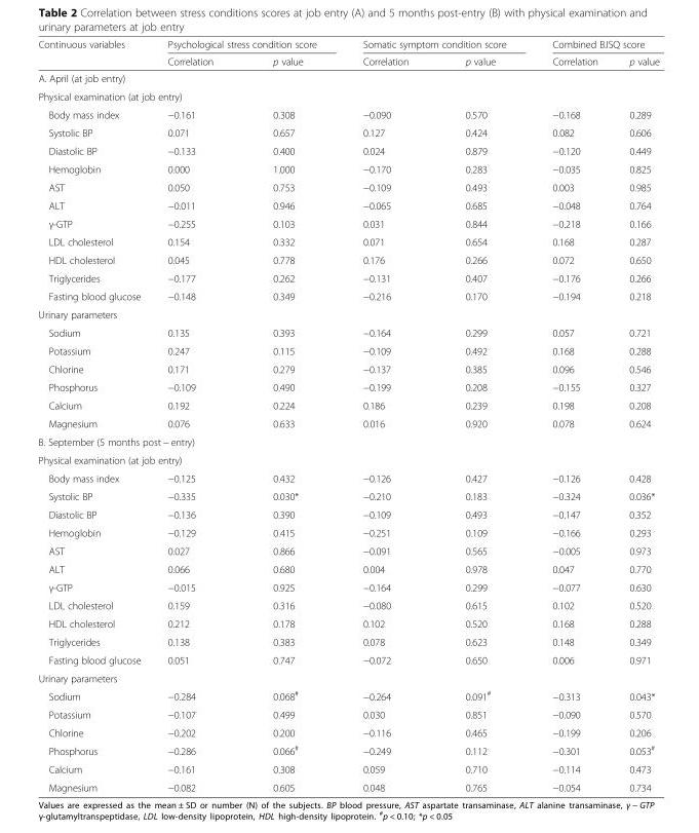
<table><thead><tr><td rowspan="2">Continuous variables</td><td colspan="2">Psychological stress condition score</td><td colspan="2">Somatic symptom condition score</td><td colspan="2">Combined BJSQ score</td></tr><tr><td>Correlation</td><td>p value</td><td>Correlation</td><td>p value</td><td>Correlation</td><td>p value</td></tr></thead><tbody><tr><td colspan="7">A. April (at job entry)</td></tr><tr><td colspan="7">Physical examination (at job entry)</td></tr><tr><td>Body mass index</td><td>−0.161</td><td>0.308</td><td>−0.090</td><td>0.570</td><td>−0.168</td><td>0.289</td></tr><tr><td>Systolic BP</td><td>0.071</td><td>0.657</td><td>0.127</td><td>0.424</td><td>0.082</td><td>0.606</td></tr><tr><td>Diastolic BP</td><td>−0.133</td><td>0.400</td><td>0.024</td><td>0.879</td><td>−0.120</td><td>0.449</td></tr><tr><td>Hemoglobin</td><td>0.000</td><td>1.000</td><td>−0.170</td><td>0.283</td><td>−0.035</td><td>0.825</td></tr><tr><td>AST</td><td>0.050</td><td>0.753</td><td>−0.109</td><td>0.493</td><td>0.003</td><td>0.985</td></tr><tr><td>ALT</td><td>−0.011</td><td>0.946</td><td>−0.065</td><td>0.685</td><td>−0.048</td><td>0.764</td></tr><tr><td>γ-GTP</td><td>−0.255</td><td>0.103</td><td>0.031</td><td>0.844</td><td>−0.218</td><td>0.166</td></tr><tr><td>LDL cholesterol</td><td>0.154</td><td>0.332</td><td>0.071</td><td>0.654</td><td>0.168</td><td>0.287</td></tr><tr><td>HDL cholesterol</td><td>0.045</td><td>0.778</td><td>0.176</td><td>0.266</td><td>0.072</td><td>0.650</td></tr><tr><td>Triglycerides</td><td>−0.177</td><td>0.262</td><td>−0.131</td><td>0.407</td><td>−0.176</td><td>0.266</td></tr><tr><td>Fasting blood glucose</td><td>−0.148</td><td>0.349</td><td>−0.216</td><td>0.170</td><td>−0.194</td><td>0.218</td></tr><tr><td colspan="7">Urinary parameters</td></tr><tr><td>Sodium</td><td>0.135</td><td>0.393</td><td>−0.164</td><td>0.299</td><td>0.057</td><td>0.721</td></tr><tr><td>Potassium</td><td>0.247</td><td>0.115</td><td>−0.109</td><td>0.492</td><td>0.168</td><td>0.288</td></tr><tr><td>Chlorine</td><td>0.171</td><td>0.279</td><td>−0.137</td><td>0.385</td><td>0.096</td><td>0.546</td></tr><tr><td>Phosphorus</td><td>−0.109</td><td>0.490</td><td>−0.199</td><td>0.208</td><td>−0.155</td><td>0.327</td></tr><tr><td>Calcium</td><td>0.192</td><td>0.224</td><td>0.186</td><td>0.239</td><td>0.198</td><td>0.208</td></tr><tr><td>Magnesium</td><td>0.076</td><td>0.633</td><td>0.016</td><td>0.920</td><td>0.078</td><td>0.624</td></tr><tr><td colspan="7">B. September (5 months post − entry)</td></tr><tr><td colspan="7">Physical examination (at job entry)</td></tr><tr><td>Body mass index</td><td>−0.125</td><td>0.432</td><td>−0.126</td><td>0.427</td><td>−0.126</td><td>0.428</td></tr><tr><td>Systolic BP</td><td>−0.335</td><td>0.030*</td><td>−0.210</td><td>0.183</td><td>−0.324</td><td>0.036*</td></tr><tr><td>Diastolic BP</td><td>−0.136</td><td>0.390</td><td>−0.109</td><td>0.493</td><td>−0.147</td><td>0.352</td></tr><tr><td>Hemoglobin</td><td>−0.129</td><td>0.415</td><td>−0.251</td><td>0.109</td><td>−0.166</td><td>0.293</td></tr><tr><td>AST</td><td>0.027</td><td>0.866</td><td>−0.091</td><td>0.565</td><td>−0.005</td><td>0.973</td></tr><tr><td>ALT</td><td>0.066</td><td>0.680</td><td>0.004</td><td>0.978</td><td>0.047</td><td>0.770</td></tr><tr><td>γ-GTP</td><td>−0.015</td><td>0.925</td><td>−0.164</td><td>0.299</td><td>−0.077</td><td>0.630</td></tr><tr><td>LDL cholesterol</td><td>0.159</td><td>0.316</td><td>−0.080</td><td>0.615</td><td>0.102</td><td>0.520</td></tr><tr><td>HDL cholesterol</td><td>0.212</td><td>0.178</td><td>0.102</td><td>0.520</td><td>0.168</td><td>0.288</td></tr><tr><td>Triglycerides</td><td>0.138</td><td>0.383</td><td>0.078</td><td>0.623</td><td>0.148</td><td>0.349</td></tr><tr><td>Fasting blood glucose</td><td>0.051</td><td>0.747</td><td>−0.072</td><td>0.650</td><td>0.006</td><td>0.971</td></tr><tr><td colspan="7">Urinary parameters</td></tr><tr><td>Sodium</td><td>−0.284</td><td>0.068<sup>#</sup></td><td>−0.264</td><td>0.091<sup>#</sup></td><td>−0.313</td><td>0.043*</td></tr><tr><td>Potassium</td><td>−0.107</td><td>0.499</td><td>0.030</td><td>0.851</td><td>−0.090</td><td>0.570</td></tr><tr><td>Chlorine</td><td>−0.202</td><td>0.200</td><td>−0.116</td><td>0.465</td><td>−0.199</td><td>0.206</td></tr><tr><td>Phosphorus</td><td>−0.286</td><td>0.066<sup>#</sup></td><td>−0.249</td><td>0.112</td><td>−0.301</td><td>0.053<sup>#</sup></td></tr><tr><td>Calcium</td><td>−0.161</td><td>0.308</td><td>0.059</td><td>0.710</td><td>−0.114</td><td>0.473</td></tr><tr><td>Magnesium</td><td>−0.082</td><td>0.605</td><td>0.048</td><td>0.765</td><td>−0.054</td><td>0.734</td></tr></tbody></table>